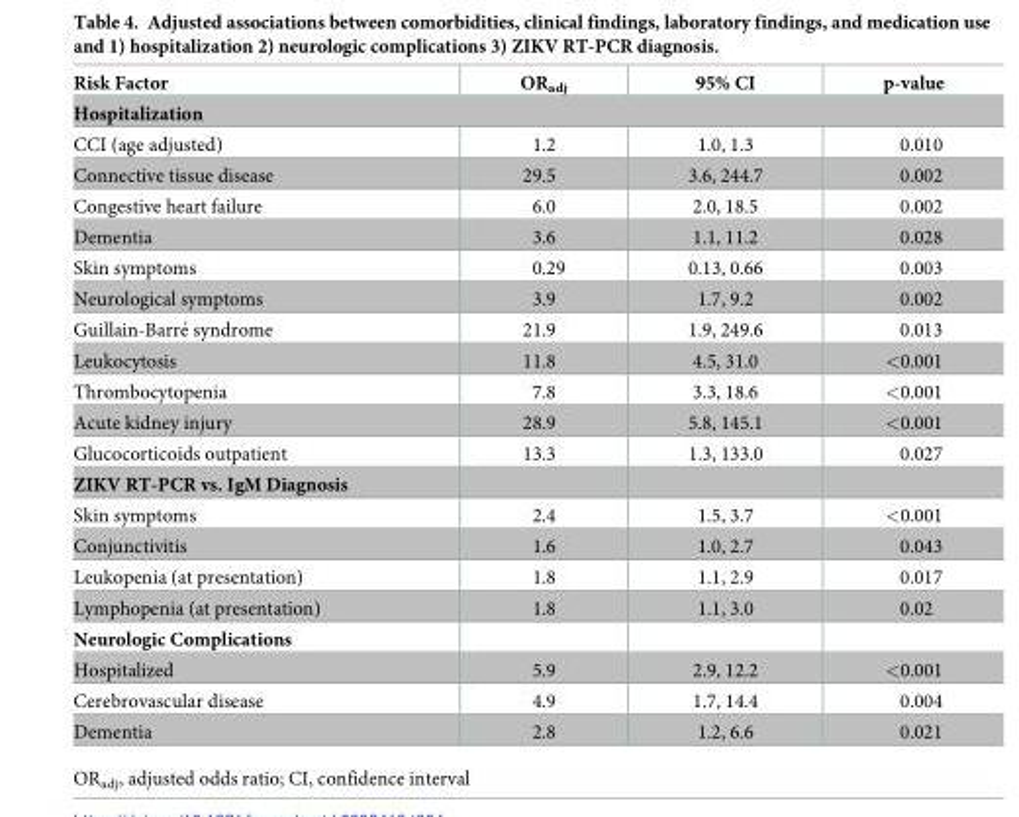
<table><thead><tr><td>Risk Factor</td><td>OR<sub>adj</sub></td><td>95% CI</td><td>p-value</td></tr></thead><tbody><tr><td colspan="4">Hospitalization</td></tr><tr><td>CCI (age adjusted)</td><td>1.2</td><td>1.0, 1.3</td><td>0.010</td></tr><tr><td>Connective tissue disease</td><td>29.5</td><td>3.6, 244.7</td><td>0.002</td></tr><tr><td>Congestive heart failure</td><td>6.0</td><td>2.0, 18.5</td><td>0.002</td></tr><tr><td>Dementia</td><td>3.6</td><td>1.1, 11.2</td><td>0.028</td></tr><tr><td>Skin symptoms</td><td>0.29</td><td>0.13, 0.66</td><td>0.003</td></tr><tr><td>Neurological symptoms</td><td>3.9</td><td>1.7, 9.2</td><td>0.002</td></tr><tr><td>Guillain-Barre´ syndrome</td><td>21.9</td><td>1.9, 249.6</td><td>0.013</td></tr><tr><td>Leukocytosis</td><td>11.8</td><td>4.5, 31.0</td><td>&lt;0.001</td></tr><tr><td>Thrombocytopenia</td><td>7.8</td><td>3.3, 18.6</td><td>&lt;0.001</td></tr><tr><td>Acute kidney injury</td><td>28.9</td><td>5.8, 145.1</td><td>&lt;0.001</td></tr><tr><td>Glucocorticoids outpatient</td><td>13.3</td><td>1.3, 133.0</td><td>0.027</td></tr><tr><td colspan="4">ZIKV RT-PCR vs. IgM Diagnosis</td></tr><tr><td>Skin symptoms</td><td>2.4</td><td>1.5, 3.7</td><td>&lt;0.001</td></tr><tr><td>Conjunctivitis</td><td>1.6</td><td>1.0, 2.7</td><td>0.043</td></tr><tr><td>Leukopenia (at presentation)</td><td>1.8</td><td>1.1, 2.9</td><td>0.017</td></tr><tr><td>Lymphopenia (at presentation)</td><td>1.8</td><td>1.1, 3.0</td><td>0.02</td></tr><tr><td colspan="4">Neurologic Complications</td></tr><tr><td>Hospitalized</td><td>5.9</td><td>2.9, 12.2</td><td>&lt;0.001</td></tr><tr><td>Cerebrovascular disease</td><td>4.9</td><td>1.7, 14.4</td><td>0.004</td></tr><tr><td>Dementia</td><td>2.8</td><td>1.2, 6.6</td><td>0.021</td></tr></tbody></table>